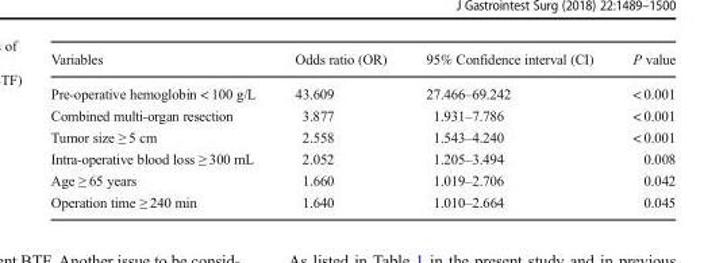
<table><thead><tr><td>Variables</td><td>Odds ratio (OR)</td><td>95% Confidence interval (CI)</td><td>P value</td></tr></thead><tbody><tr><td>Pre-operative hemoglobin &lt; 100 g/L</td><td>43.609</td><td>27.466–69.242</td><td>&lt; 0.001</td></tr><tr><td>Combined multi-organ resection</td><td>3.877</td><td>1.931–7.786</td><td>&lt; 0.001</td></tr><tr><td>Tumor size ≥ 5 cm</td><td>2.558</td><td>1.543–4.240</td><td>&lt; 0.001</td></tr><tr><td>Intra-operative blood loss ≥ 300 mL</td><td>2.052</td><td>1.205–3.494</td><td>0.008</td></tr><tr><td>Age ≥ 65 years</td><td>1.660</td><td>1.019–2.706</td><td>0.042</td></tr><tr><td>Operation time ≥ 240 min</td><td>1.640</td><td>1.010–2.664</td><td>0.045</td></tr></tbody></table>